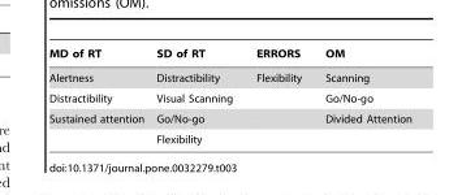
<table><thead><tr><td>MD of RT</td><td>SD of RT</td><td>ERRORS</td><td>OM</td></tr></thead><tbody><tr><td>Alertness</td><td>Distractibility</td><td>Flexibility</td><td>Scanning</td></tr><tr><td>Distractibility</td><td>Visual Scanning</td><td></td><td>Go/No-go</td></tr><tr><td rowspan="2">Sustained attention</td><td>Go/No-go</td><td></td><td>Divided Attention</td></tr><tr><td>Flexibility</td><td></td><td></td></tr></tbody></table>